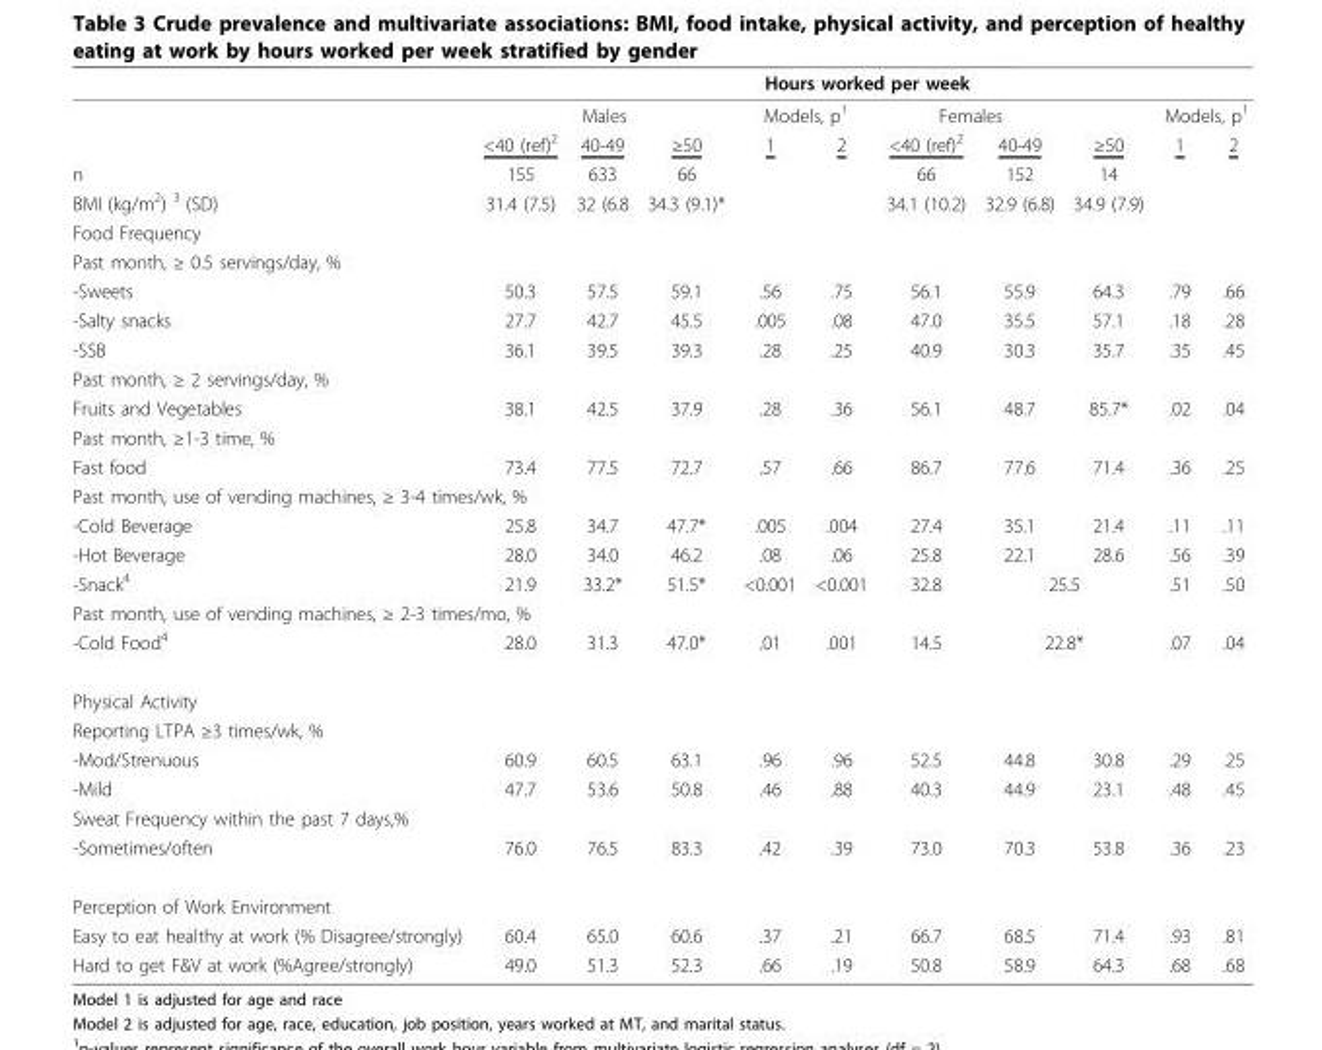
<table><thead><tr><td rowspan="3"></td><td colspan="10">Hours worked per week</td></tr><tr><td colspan="3">Males</td><td colspan="2">Models, p<sup>1</sup></td><td colspan="2">Females</td><td rowspan="2">≥50</td><td colspan="2">Models, p<sup>1</sup></td></tr><tr><td>&lt;40 (ref)<sup>2</sup></td><td>40-49</td><td>≥50</td><td>1</td><td>2</td><td>&lt;40 (ref)<sup>2</sup></td><td>40-49</td><td>1</td><td>2</td></tr></thead><tbody><tr><td>n</td><td>155</td><td>633</td><td>66</td><td></td><td></td><td>66</td><td>152</td><td>14</td><td></td><td></td></tr><tr><td>BMI (kg/m<sup>2</sup>) <sup>3</sup> (SD)</td><td>31.4 (7.5)</td><td>32 (6.8</td><td>34.3 (9.1)*</td><td></td><td></td><td>34.1 (10.2)</td><td>32.9 (6.8)</td><td>34.9 (7.9)</td><td></td><td></td></tr><tr><td colspan="11">Food Frequency</td></tr><tr><td colspan="11">Past month, ≥ 0.5 servings/day, %</td></tr><tr><td>-Sweets</td><td>50.3</td><td>57.5</td><td>59.1</td><td>.56</td><td>.75</td><td>56.1</td><td>55.9</td><td>64.3</td><td>.79</td><td>.66</td></tr><tr><td>-Salty snacks</td><td>27.7</td><td>42.7</td><td>45.5</td><td>.005</td><td>.08</td><td>47.0</td><td>35.5</td><td>57.1</td><td>.18</td><td>.28</td></tr><tr><td>-SSB</td><td>36.1</td><td>39.5</td><td>39.3</td><td>.28</td><td>.25</td><td>40.9</td><td>30.3</td><td>35.7</td><td>.35</td><td>.45</td></tr><tr><td colspan="11">Past month, ≥ 2 servings/day, %</td></tr><tr><td>Fruits and Vegetables</td><td>38.1</td><td>42.5</td><td>37.9</td><td>.28</td><td>.36</td><td>56.1</td><td>48.7</td><td>85.7*</td><td>.02</td><td>.04</td></tr><tr><td colspan="11">Past month, ≥1-3 time, %</td></tr><tr><td>Fast food</td><td>73.4</td><td>77.5</td><td>72.7</td><td>.57</td><td>.66</td><td>86.7</td><td>77.6</td><td>71.4</td><td>.36</td><td>.25</td></tr><tr><td colspan="11">Past month, use of vending machines, ≥ 3-4 times/wk, %</td></tr><tr><td>-Cold Beverage</td><td>25.8</td><td>34.7</td><td>47.7*</td><td>.005</td><td>.004</td><td>27.4</td><td>35.1</td><td>21.4</td><td>.11</td><td>.11</td></tr><tr><td>-Hot Beverage</td><td>28.0</td><td>34.0</td><td>46.2</td><td>.08</td><td>.06</td><td>25.8</td><td>22.1</td><td>28.6</td><td>.56</td><td>.39</td></tr><tr><td>-Snack<sup>4</sup></td><td>21.9</td><td>33.2*</td><td>51.5*</td><td>&lt;0.001</td><td>&lt;0.001</td><td>32.8</td><td colspan="2">25.5</td><td>.51</td><td>.50</td></tr><tr><td colspan="11">Past month, use of vending machines, ≥ 2-3 times/mo, %</td></tr><tr><td>-Cold Food<sup>4</sup></td><td>28.0</td><td>31.3</td><td>47.0*</td><td>.01</td><td>.001</td><td>14.5</td><td colspan="2">22.8*</td><td>.07</td><td>.04</td></tr><tr><td colspan="11">Physical Activity</td></tr><tr><td colspan="11">Reporting LTPA ≥3 times/wk, %</td></tr><tr><td>-Mod/Strenuous</td><td>60.9</td><td>60.5</td><td>63.1</td><td>.96</td><td>.96</td><td>52.5</td><td>44.8</td><td>30.8</td><td>.29</td><td>.25</td></tr><tr><td>-Mild</td><td>47.7</td><td>53.6</td><td>50.8</td><td>.46</td><td>.88</td><td>40.3</td><td>44.9</td><td>23.1</td><td>.48</td><td>.45</td></tr><tr><td colspan="11">Sweat Frequency within the past 7 days,%</td></tr><tr><td>-Sometimes/often</td><td>76.0</td><td>76.5</td><td>83.3</td><td>.42</td><td>.39</td><td>73.0</td><td>70.3</td><td>53.8</td><td>.36</td><td>.23</td></tr><tr><td colspan="11">Perception of Work Environment</td></tr><tr><td>Easy to eat healthy at work (% Disagree/strongly)</td><td>60.4</td><td>65.0</td><td>60.6</td><td>.37</td><td>.21</td><td>66.7</td><td>68.5</td><td>71.4</td><td>.93</td><td>.81</td></tr><tr><td>Hard to get F&amp;V at work (%Agree/strongly)</td><td>49.0</td><td>51.3</td><td>52.3</td><td>.66</td><td>.19</td><td>50.8</td><td>58.9</td><td>64.3</td><td>.68</td><td>.68</td></tr></tbody></table>